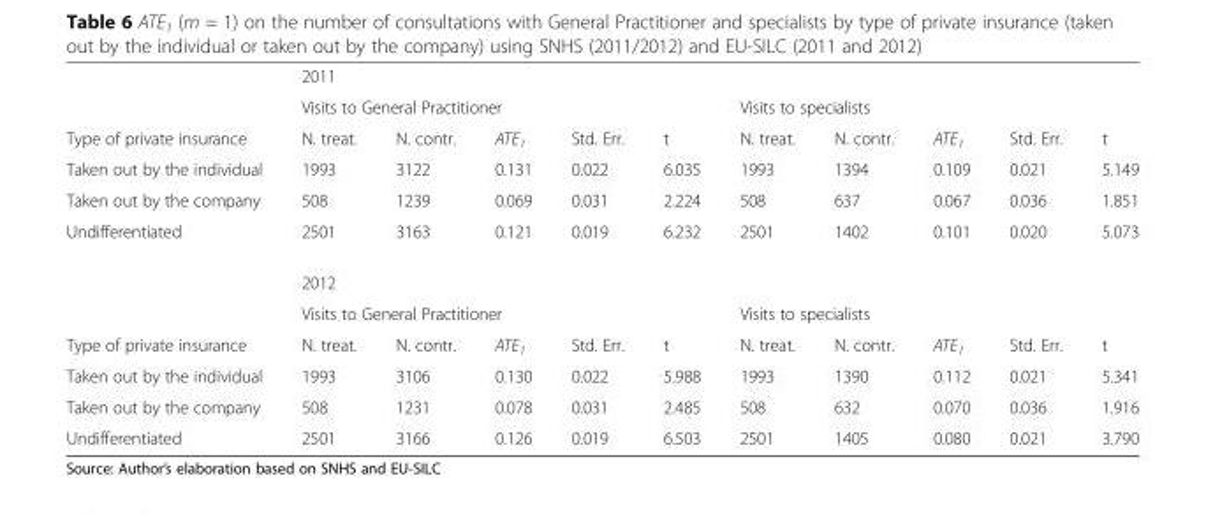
<table><thead><tr><td rowspan="3">Type of private insurance</td><td colspan="10">2011</td></tr><tr><td colspan="5">Visits to General Practitioner</td><td colspan="5">Visits to specialists</td></tr><tr><td>N. treat.</td><td>N. contr.</td><td>ATE<sub>1</sub></td><td>Std. Err.</td><td>t</td><td>N. treat.</td><td>N. contr.</td><td>ATE<sub>1</sub></td><td>Std. Err.</td><td>t</td></tr></thead><tbody><tr><td>Taken out by the individual</td><td>1993</td><td>3122</td><td>0.131</td><td>0.022</td><td>6.035</td><td>1993</td><td>1394</td><td>0.109</td><td>0.021</td><td>5.149</td></tr><tr><td>Taken out by the company</td><td>508</td><td>1239</td><td>0.069</td><td>0.031</td><td>2.224</td><td>508</td><td>637</td><td>0.067</td><td>0.036</td><td>1.851</td></tr><tr><td rowspan="3">Undifferentiated</td><td>2501</td><td>3163</td><td>0.121</td><td>0.019</td><td>6.232</td><td>2501</td><td>1402</td><td>0.101</td><td>0.020</td><td>5.073</td></tr><tr><td colspan="10">2012</td></tr><tr><td colspan="5">Visits to General Practitioner</td><td colspan="5">Visits to specialists</td></tr><tr><td>Type of private insurance</td><td>N. treat.</td><td>N. contr.</td><td>ATE<sub>1</sub></td><td>Std. Err.</td><td>t</td><td>N. treat.</td><td>N. contr.</td><td>ATE<sub>1</sub></td><td>Std. Err.</td><td>t</td></tr><tr><td>Taken out by the individual</td><td>1993</td><td>3106</td><td>0.130</td><td>0.022</td><td>5.988</td><td>1993</td><td>1390</td><td>0.112</td><td>0.021</td><td>5.341</td></tr><tr><td>Taken out by the company</td><td>508</td><td>1231</td><td>0.078</td><td>0.031</td><td>2.485</td><td>508</td><td>632</td><td>0.070</td><td>0.036</td><td>1.916</td></tr><tr><td>Undifferentiated</td><td>2501</td><td>3166</td><td>0.126</td><td>0.019</td><td>6.503</td><td>2501</td><td>1405</td><td>0.080</td><td>0.021</td><td>3.790</td></tr></tbody></table>